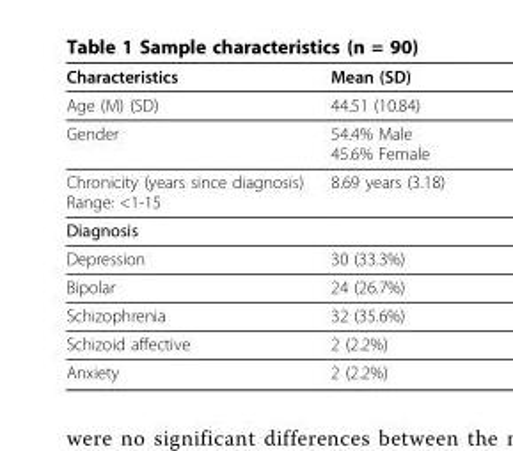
<table><thead><tr><td>Characteristics</td><td>Mean (SD)</td></tr></thead><tbody><tr><td>Age (M) (SD)</td><td>44.51 (10.84)</td></tr><tr><td>Gender</td><td>54.4% Male 45.6% Female</td></tr><tr><td>Chronicity (years since diagnosis) Range: &lt;1-15</td><td>8.69 years (3.18)</td></tr><tr><td colspan="2">Diagnosis</td></tr><tr><td>Depression</td><td>30 (33.3%)</td></tr><tr><td>Bipolar</td><td>24 (26.7%)</td></tr><tr><td>Schizophrenia</td><td>32 (35.6%)</td></tr><tr><td>Schizoid affective</td><td>2 (2.2%)</td></tr><tr><td>Anxiety</td><td>2 (2.2%)</td></tr></tbody></table>